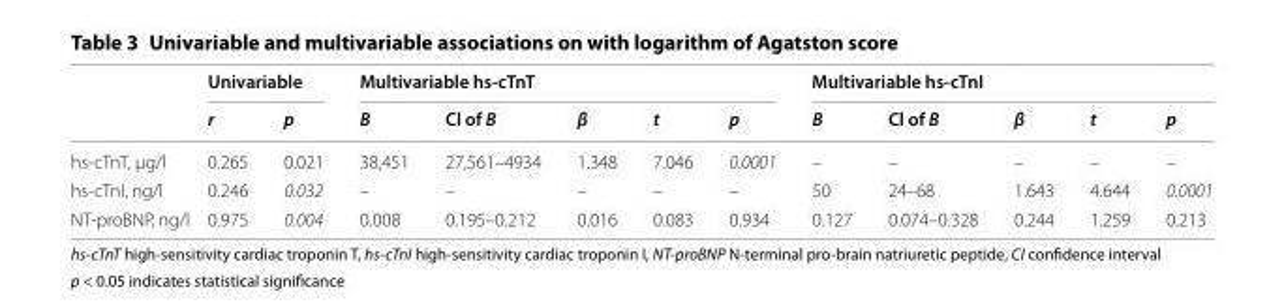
<table><thead><tr><td rowspan="2"></td><td colspan="2">Univariable</td><td colspan="5">Multivariable hs‑cTnT</td><td colspan="5">Multivariable hs‑cTnI</td></tr><tr><td>r</td><td>p</td><td>B</td><td>Cl of B</td><td>β</td><td>t</td><td>p</td><td>B</td><td>Cl of B</td><td>β</td><td>t</td><td>p</td></tr></thead><tbody><tr><td>hs-cTnT, μg/l</td><td>0.265</td><td>0.021</td><td>38,451</td><td>27,561–4934</td><td>1.348</td><td>7.046</td><td>0.0001</td><td>–</td><td>–</td><td>–</td><td>–</td><td>–</td></tr><tr><td>hs-cTnI, ng/l</td><td>0.246</td><td>0.032</td><td>–</td><td>–</td><td>–</td><td>–</td><td>–</td><td>50</td><td>24–68</td><td>1.643</td><td>4.644</td><td>0.0001</td></tr><tr><td>NT-proBNP, ng/l</td><td>0.975</td><td>0.004</td><td>0.008</td><td>0.195–0.212</td><td>0.016</td><td>0.083</td><td>0.934</td><td>0.127</td><td>0.074–0.328</td><td>0.244</td><td>1.259</td><td>0.213</td></tr></tbody></table>